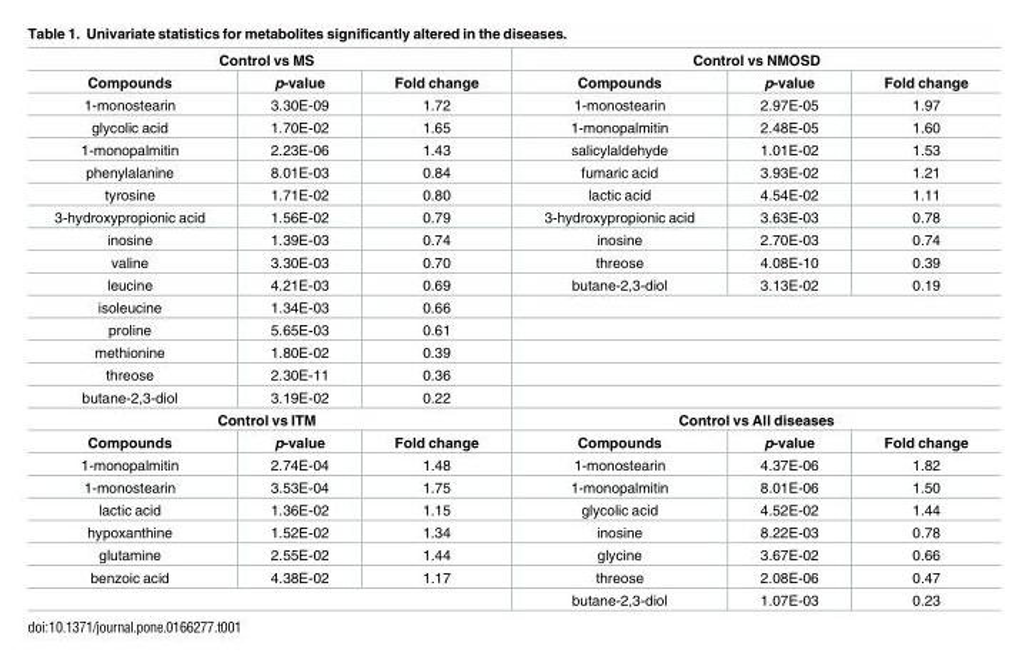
<table><tbody><tr><td colspan="3">Control vs MS</td><td colspan="3">Control vs NMOSD</td></tr><tr><td>Compounds</td><td>p-value</td><td>Fold change</td><td>Compounds</td><td>p-value</td><td>Fold change</td></tr><tr><td>1-monostearin</td><td>3.30E-09</td><td>1.72</td><td>1-monostearin</td><td>2.97E-05</td><td>1.97</td></tr><tr><td>glycolic acid</td><td>1.70E-02</td><td>1.65</td><td>1-monopalmitin</td><td>2.48E-05</td><td>1.60</td></tr><tr><td>1-monopalmitin</td><td>2.23E-06</td><td>1.43</td><td>salicylaldehyde</td><td>1.01E-02</td><td>1.53</td></tr><tr><td>phenylalanine</td><td>8.01E-03</td><td>0.84</td><td>fumaric acid</td><td>3.93E-02</td><td>1.21</td></tr><tr><td>tyrosine</td><td>1.71E-02</td><td>0.80</td><td>lactic acid</td><td>4.54E-02</td><td>1.11</td></tr><tr><td>3-hydroxypropionic acid</td><td>1.56E-02</td><td>0.79</td><td>3-hydroxypropionic acid</td><td>3.63E-03</td><td>0.78</td></tr><tr><td>inosine</td><td>1.39E-03</td><td>0.74</td><td>inosine</td><td>2.70E-03</td><td>0.74</td></tr><tr><td>valine</td><td>3.30E-03</td><td>0.70</td><td>threose</td><td>4.08E-10</td><td>0.39</td></tr><tr><td>leucine</td><td>4.21E-03</td><td>0.69</td><td>butane-2,3-diol</td><td>3.13E-02</td><td>0.19</td></tr><tr><td>isoleucine</td><td>1.34E-03</td><td>0.66</td><td colspan="3"></td></tr><tr><td>proline</td><td>5.65E-03</td><td>0.61</td><td colspan="3"></td></tr><tr><td>methionine</td><td>1.80E-02</td><td>0.39</td><td colspan="3"></td></tr><tr><td>threose</td><td>2.30E-11</td><td>0.36</td><td colspan="3"></td></tr><tr><td>butane-2,3-diol</td><td>3.19E-02</td><td>0.22</td><td colspan="3"></td></tr><tr><td colspan="3">Control vs ITM</td><td colspan="3">Control vs All diseases</td></tr><tr><td>Compounds</td><td>p-value</td><td>Fold change</td><td>Compounds</td><td>p-value</td><td>Fold change</td></tr><tr><td>1-monopalmitin</td><td>2.74E-04</td><td>1.48</td><td>1-monostearin</td><td>4.37E-06</td><td>1.82</td></tr><tr><td>1-monostearin</td><td>3.53E-04</td><td>1.75</td><td>1-monopalmitin</td><td>8.01E-06</td><td>1.50</td></tr><tr><td>lactic acid</td><td>1.36E-02</td><td>1.15</td><td>glycolic acid</td><td>4.52E-02</td><td>1.44</td></tr><tr><td>hypoxanthine</td><td>1.52E-02</td><td>1.34</td><td>inosine</td><td>8.22E-03</td><td>0.78</td></tr><tr><td>glutamine</td><td>2.55E-02</td><td>1.44</td><td>glycine</td><td>3.67E-02</td><td>0.66</td></tr><tr><td>benzoic acid</td><td>4.38E-02</td><td>1.17</td><td>threose</td><td>2.08E-06</td><td>0.47</td></tr><tr><td colspan="3"></td><td>butane-2,3-diol</td><td>1.07E-03</td><td>0.23</td></tr></tbody></table>